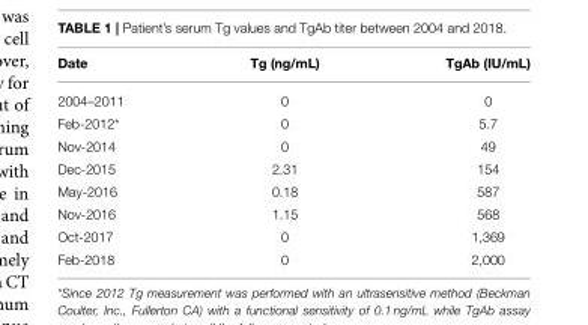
<table><thead><tr><td>Date</td><td>Tg (ng/mL)</td><td>TgAb (IU/mL)</td></tr></thead><tbody><tr><td>2004–2011</td><td>0</td><td>0</td></tr><tr><td>Feb-2012*</td><td>0</td><td>5.7</td></tr><tr><td>Nov-2014</td><td>0</td><td>49</td></tr><tr><td>Dec-2015</td><td>2.31</td><td>154</td></tr><tr><td>May-2016</td><td>0.18</td><td>587</td></tr><tr><td>Nov-2016</td><td>1.15</td><td>568</td></tr><tr><td>Oct-2017</td><td>0</td><td>1,369</td></tr><tr><td>Feb-2018</td><td>0</td><td>2,000</td></tr></tbody></table>